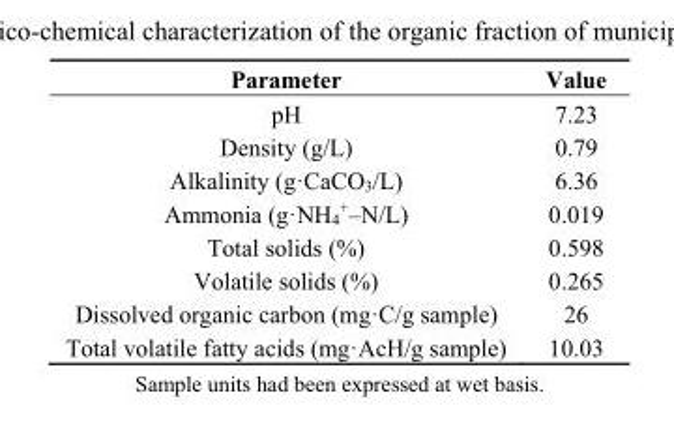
<table><thead><tr><td>Parameter</td><td>Value</td></tr></thead><tbody><tr><td>pH</td><td>7.23</td></tr><tr><td>Density (g/L)</td><td>0.79</td></tr><tr><td>Alkalinity (g·CaCO<sub>3</sub>/L)</td><td>6.36</td></tr><tr><td>Ammonia (g·NH<sub>4</sub><sup>+</sup>–N/L)</td><td>0.019</td></tr><tr><td>Total solids (%)</td><td>0.598</td></tr><tr><td>Volatile solids (%)</td><td>0.265</td></tr><tr><td>Dissolved organic carbon (mg·C/g sample)</td><td>26</td></tr><tr><td>Total volatile fatty acids (mg·AcH/g sample)</td><td>10.03</td></tr></tbody></table>